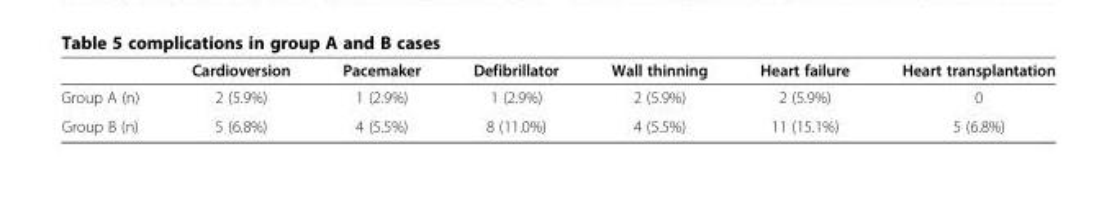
<table><thead><tr><td></td><td>Cardioversion</td><td>Pacemaker</td><td>Defibrillator</td><td>Wall thinning</td><td>Heart failure</td><td>Heart transplantation</td></tr></thead><tbody><tr><td>Group A (n)</td><td>2 (5.9%)</td><td>1 (2.9%)</td><td>1 (2.9%)</td><td>2 (5.9%)</td><td>2 (5.9%)</td><td>0</td></tr><tr><td>Group B (n)</td><td>5 (6.8%)</td><td>4 (5.5%)</td><td>8 (11.0%)</td><td>4 (5.5%)</td><td>11 (15.1%)</td><td>5 (6.8%)</td></tr></tbody></table>